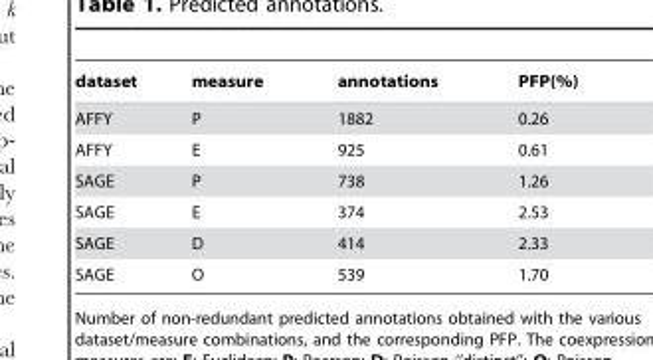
<table><thead><tr><td>dataset</td><td>measure</td><td>annotations</td><td>PFP(%)</td></tr></thead><tbody><tr><td>AFFY</td><td>P</td><td>1882</td><td>0.26</td></tr><tr><td>AFFY</td><td>E</td><td>925</td><td>0.61</td></tr><tr><td>SAGE</td><td>P</td><td>738</td><td>1.26</td></tr><tr><td>SAGE</td><td>E</td><td>374</td><td>2.53</td></tr><tr><td>SAGE</td><td>D</td><td>414</td><td>2.33</td></tr><tr><td>SAGE</td><td>O</td><td>539</td><td>1.70</td></tr></tbody></table>